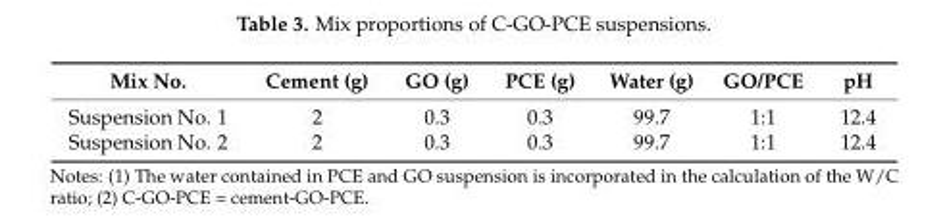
<table><thead><tr><td>Mix No.</td><td>Cement (g)</td><td>GO (g)</td><td>PCE (g)</td><td>Water (g)</td><td>GO/PCE</td><td>pH</td></tr></thead><tbody><tr><td>Suspension No. 1</td><td>2</td><td>0.3</td><td>0.3</td><td>99.7</td><td>1:1</td><td>12.4</td></tr><tr><td>Suspension No. 2</td><td>2</td><td>0.3</td><td>0.3</td><td>99.7</td><td>1:1</td><td>12.4</td></tr></tbody></table>